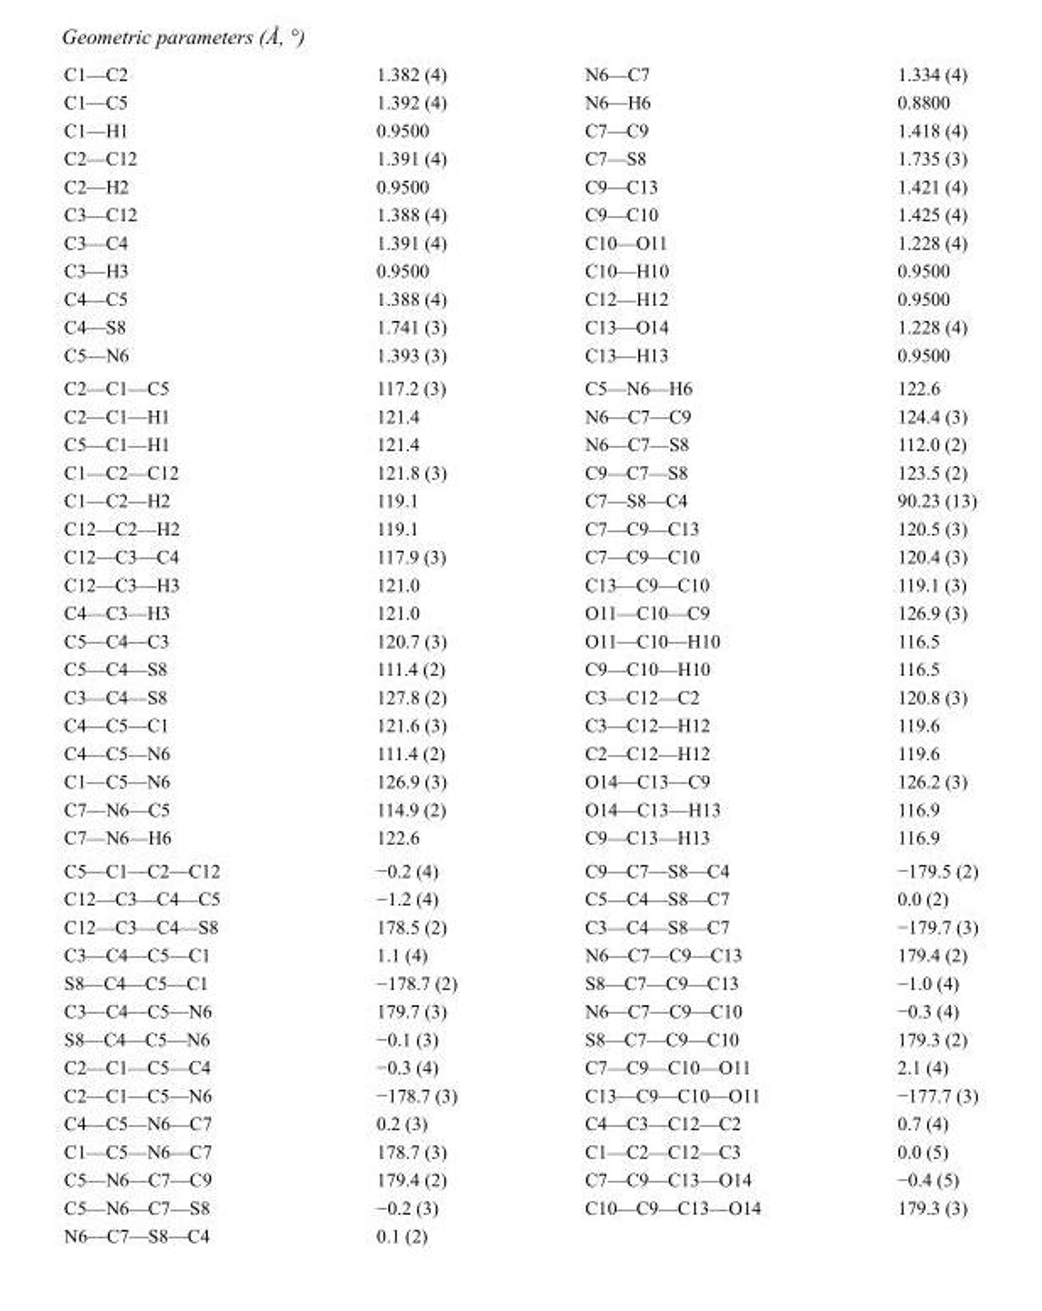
<table><tbody><tr><td>C1—C2</td><td>1.382 (4)</td><td>N6—C7</td><td>1.334 (4)</td></tr><tr><td>C1—C5</td><td>1.392 (4)</td><td>N6—H6</td><td>0.8800</td></tr><tr><td>C1—H1</td><td>0.9500</td><td>C7—C9</td><td>1.418 (4)</td></tr><tr><td>C2—C12</td><td>1.391 (4)</td><td>C7—S8</td><td>1.735 (3)</td></tr><tr><td>C2—H2</td><td>0.9500</td><td>C9—C13</td><td>1.421 (4)</td></tr><tr><td>C3—C12</td><td>1.388 (4)</td><td>C9—C10</td><td>1.425 (4)</td></tr><tr><td>C3—C4</td><td>1.391 (4)</td><td>C10—O11</td><td>1.228 (4)</td></tr><tr><td>C3—H3</td><td>0.9500</td><td>C10—H10</td><td>0.9500</td></tr><tr><td>C4—C5</td><td>1.388 (4)</td><td>C12—H12</td><td>0.9500</td></tr><tr><td>C4—S8</td><td>1.741 (3)</td><td>C13—O14</td><td>1.228 (4)</td></tr><tr><td>C5—N6</td><td>1.393 (3)</td><td>C13—H13</td><td>0.9500</td></tr><tr><td>C2—C1—C5</td><td>117.2 (3)</td><td>C5—N6—H6</td><td>122.6</td></tr><tr><td>C2—C1—H1</td><td>121.4</td><td>N6—C7—C9</td><td>124.4 (3)</td></tr><tr><td>C5—C1—H1</td><td>121.4</td><td>N6—C7—S8</td><td>112.0 (2)</td></tr><tr><td>C1—C2—C12</td><td>121.8 (3)</td><td>C9—C7—S8</td><td>123.5 (2)</td></tr><tr><td>C1—C2—H2</td><td>119.1</td><td>C7—S8—C4</td><td>90.23 (13)</td></tr><tr><td>C12—C2—H2</td><td>119.1</td><td>C7—C9—C13</td><td>120.5 (3)</td></tr><tr><td>C12—C3—C4</td><td>117.9 (3)</td><td>C7—C9—C10</td><td>120.4 (3)</td></tr><tr><td>C12—C3—H3</td><td>121.0</td><td>C13—C9—C10</td><td>119.1 (3)</td></tr><tr><td>C4—C3—H3</td><td>121.0</td><td>O11—C10—C9</td><td>126.9 (3)</td></tr><tr><td>C5—C4—C3</td><td>120.7 (3)</td><td>O11—C10—H10</td><td>116.5</td></tr><tr><td>C5—C4—S8</td><td>111.4 (2)</td><td>C9—C10—H10</td><td>116.5</td></tr><tr><td>C3—C4—S8</td><td>127.8 (2)</td><td>C3—C12—C2</td><td>120.8 (3)</td></tr><tr><td>C4—C5—C1</td><td>121.6 (3)</td><td>C3—C12—H12</td><td>119.6</td></tr><tr><td>C4—C5—N6</td><td>111.4 (2)</td><td>C2—C12—H12</td><td>119.6</td></tr><tr><td>C1—C5—N6</td><td>126.9 (3)</td><td>O14—C13—C9</td><td>126.2 (3)</td></tr><tr><td>C7—N6—C5</td><td>114.9 (2)</td><td>O14—C13—H13</td><td>116.9</td></tr><tr><td>C7—N6—H6</td><td>122.6</td><td>C9—C13—H13</td><td>116.9</td></tr><tr><td>C5—C1—C2—C12</td><td>−0.2 (4)</td><td>C9—C7—S8—C4</td><td>−179.5 (2)</td></tr><tr><td>C12—C3—C4—C5</td><td>−1.2 (4)</td><td>C5—C4—S8—C7</td><td>0.0 (2)</td></tr><tr><td>C12—C3—C4—S8</td><td>178.5 (2)</td><td>C3—C4—S8—C7</td><td>−179.7 (3)</td></tr><tr><td>C3—C4—C5—C1</td><td>1.1 (4)</td><td>N6—C7—C9—C13</td><td>179.4 (2)</td></tr><tr><td>S8—C4—C5—C1</td><td>−178.7 (2)</td><td>S8—C7—C9—C13</td><td>−1.0 (4)</td></tr><tr><td>C3—C4—C5—N6</td><td>179.7 (3)</td><td>N6—C7—C9—C10</td><td>−0.3 (4)</td></tr><tr><td>S8—C4—C5—N6</td><td>−0.1 (3)</td><td>S8—C7—C9—C10</td><td>179.3 (2)</td></tr><tr><td>C2—C1—C5—C4</td><td>−0.3 (4)</td><td>C7—C9—C10—O11</td><td>2.1 (4)</td></tr><tr><td>C2—C1—C5—N6</td><td>−178.7 (3)</td><td>C13—C9—C10—O11</td><td>−177.7 (3)</td></tr><tr><td>C4—C5—N6—C7</td><td>0.2 (3)</td><td>C4—C3—C12—C2</td><td>0.7 (4)</td></tr><tr><td>C1—C5—N6—C7</td><td>178.7 (3)</td><td>C1—C2—C12—C3</td><td>0.0 (5)</td></tr><tr><td>C5—N6—C7—C9</td><td>179.4 (2)</td><td>C7—C9—C13—O14</td><td>−0.4 (5)</td></tr><tr><td>C5—N6—C7—S8</td><td>−0.2 (3)</td><td>C10—C9—C13—O14</td><td>179.3 (3)</td></tr><tr><td>N6—C7—S8—C4</td><td>0.1 (2)</td><td></td><td></td></tr></tbody></table>